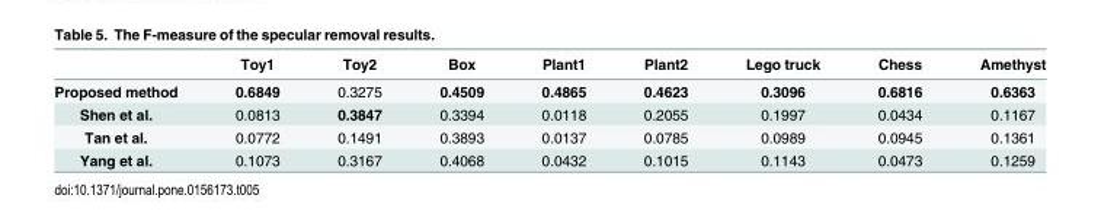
<table><thead><tr><td></td><td>Toy1</td><td>Toy2</td><td>Box</td><td>Plant1</td><td>Plant2</td><td>Lego truck</td><td>Chess</td><td>Amethyst</td></tr></thead><tbody><tr><td>Proposed method</td><td>0.6849</td><td>0.3275</td><td>0.4509</td><td>0.4865</td><td>0.4623</td><td>0.3096</td><td>0.6816</td><td>0.6363</td></tr><tr><td>Shen et al.</td><td>0.0813</td><td>0.3847</td><td>0.3394</td><td>0.0118</td><td>0.2055</td><td>0.1997</td><td>0.0434</td><td>0.1167</td></tr><tr><td>Tan et al.</td><td>0.0772</td><td>0.1491</td><td>0.3893</td><td>0.0137</td><td>0.0785</td><td>0.0989</td><td>0.0945</td><td>0.1361</td></tr><tr><td>Yang et al.</td><td>0.1073</td><td>0.3167</td><td>0.4068</td><td>0.0432</td><td>0.1015</td><td>0.1143</td><td>0.0473</td><td>0.1259</td></tr></tbody></table>